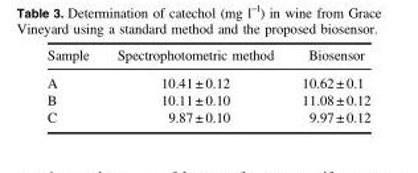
<table><thead><tr><td>Sample</td><td>Spectrophotometric method</td><td>Biosensor</td></tr></thead><tbody><tr><td>A</td><td>10.41 ± 0.12</td><td>10.62 ± 0.1</td></tr><tr><td>B</td><td>10.11 ± 0.10</td><td>11.08 ± 0.12</td></tr><tr><td>C</td><td>9.87 ± 0.10</td><td>9.97 ± 0.12</td></tr></tbody></table>